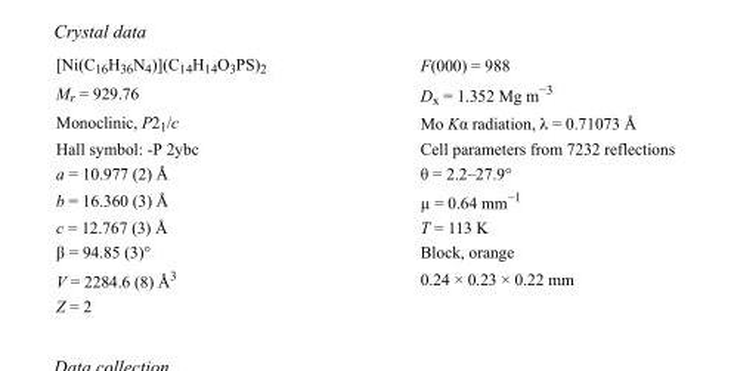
<table><tbody><tr><td>[Ni(C<sub>16</sub>H<sub>36</sub>N<sub>4</sub>)](C<sub>14</sub>H<sub>14</sub>O<sub>3</sub>PS)<sub>2</sub></td><td>F(000) = 988</td></tr><tr><td>M<sub>r</sub> = 929.76</td><td>D<sub>x</sub> = 1.352 Mg m<sup>−3</sup></td></tr><tr><td>Monoclinic, P2<sub>1</sub>/c</td><td>Mo Kα radiation, λ = 0.71073 Å</td></tr><tr><td>Hall symbol: -P 2ybc</td><td>Cell parameters from 7232 reflections</td></tr><tr><td>a = 10.977 (2) Å</td><td>θ = 2.2–27.9°</td></tr><tr><td>b = 16.360 (3) Å</td><td>µ = 0.64 mm<sup>−1</sup></td></tr><tr><td>c = 12.767 (3) Å</td><td>T = 113 K</td></tr><tr><td>β = 94.85 (3)°</td><td>Block, orange</td></tr><tr><td>V = 2284.6 (8) Å<sup>3</sup></td><td>0.24 × 0.23 × 0.22 mm</td></tr><tr><td>Z = 2</td><td></td></tr></tbody></table>